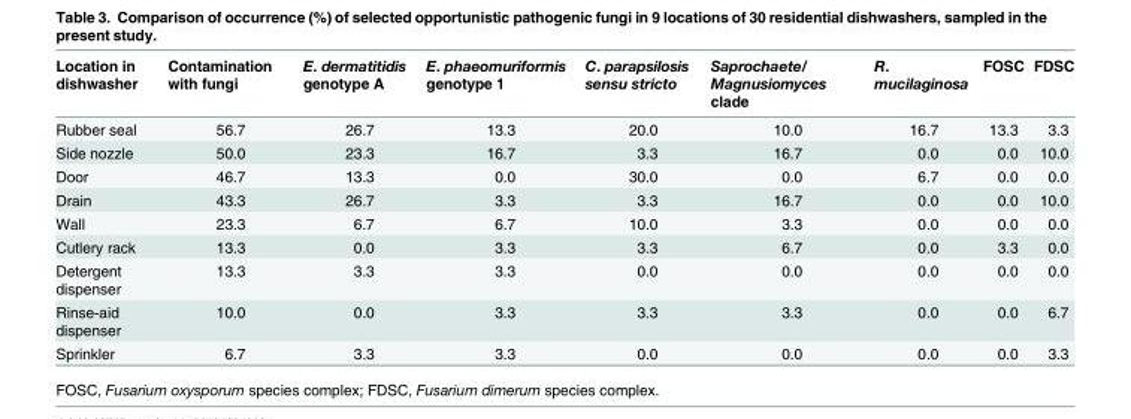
<table><thead><tr><td>Location in dishwasher</td><td>Contamination with fungi</td><td>E. dermatitidis genotype A</td><td>E. phaeomuriformis genotype 1</td><td>C. parapsilosis sensu stricto</td><td>Saprochaete/ Magnusiomyces clade</td><td>R. mucilaginosa</td><td>FOSC</td><td>FDSC</td></tr></thead><tbody><tr><td>Rubber seal</td><td>56.7</td><td>26.7</td><td>13.3</td><td>20.0</td><td>10.0</td><td>16.7</td><td>13.3</td><td>3.3</td></tr><tr><td>Side nozzle</td><td>50.0</td><td>23.3</td><td>16.7</td><td>3.3</td><td>16.7</td><td>0.0</td><td>0.0</td><td>10.0</td></tr><tr><td>Door</td><td>46.7</td><td>13.3</td><td>0.0</td><td>30.0</td><td>0.0</td><td>6.7</td><td>0.0</td><td>0.0</td></tr><tr><td>Drain</td><td>43.3</td><td>26.7</td><td>3.3</td><td>3.3</td><td>16.7</td><td>0.0</td><td>0.0</td><td>10.0</td></tr><tr><td>Wall</td><td>23.3</td><td>6.7</td><td>6.7</td><td>10.0</td><td>3.3</td><td>0.0</td><td>0.0</td><td>0.0</td></tr><tr><td>Cutlery rack</td><td>13.3</td><td>0.0</td><td>3.3</td><td>3.3</td><td>6.7</td><td>0.0</td><td>3.3</td><td>0.0</td></tr><tr><td>Detergent dispenser</td><td>13.3</td><td>3.3</td><td>3.3</td><td>0.0</td><td>0.0</td><td>0.0</td><td>0.0</td><td>0.0</td></tr><tr><td>Rinse-aid dispenser</td><td>10.0</td><td>0.0</td><td>3.3</td><td>3.3</td><td>3.3</td><td>0.0</td><td>0.0</td><td>6.7</td></tr><tr><td>Sprinkler</td><td>6.7</td><td>3.3</td><td>3.3</td><td>0.0</td><td>0.0</td><td>0.0</td><td>0.0</td><td>3.3</td></tr></tbody></table>